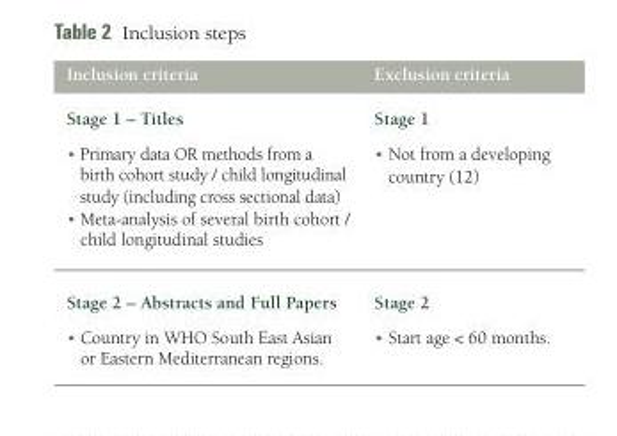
<table><thead><tr><td>Inclusion criteria</td><td>Exclusion criteria</td></tr></thead><tbody><tr><td>Stage 1 – Titles • Primary data OR methods from a birth cohort study / child longitudinal study (including cross sectional data) • Meta-analysis of several birth cohort / child longitudinal studies</td><td>Stage 1 • Not from a developing country (12)</td></tr><tr><td>Stage 2 – Abstracts and Full Papers • Country in WHO South East Asian or Eastern Mediterranean regions.</td><td>Stage 2 • Start age &lt; 60 months.</td></tr></tbody></table>